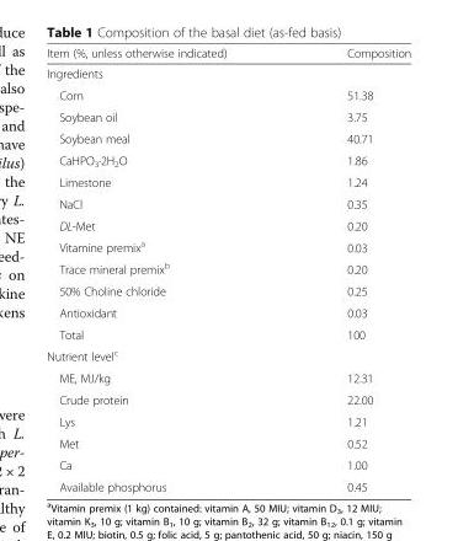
<table><thead><tr><td>Item (%, unless otherwise indicated)</td><td>Composition</td></tr></thead><tbody><tr><td colspan="2">Ingredients</td></tr><tr><td>Corn</td><td>51.38</td></tr><tr><td>Soybean oil</td><td>3.75</td></tr><tr><td>Soybean meal</td><td>40.71</td></tr><tr><td>CaHPO<sub>3</sub>·2H<sub>2</sub>O</td><td>1.86</td></tr><tr><td>Limestone</td><td>1.24</td></tr><tr><td>NaCl</td><td>0.35</td></tr><tr><td>DL-Met</td><td>0.20</td></tr><tr><td>Vitamine premix<sup>a</sup></td><td>0.03</td></tr><tr><td>Trace mineral premix<sup>b</sup></td><td>0.20</td></tr><tr><td>50% Choline chloride</td><td>0.25</td></tr><tr><td>Antioxidant</td><td>0.03</td></tr><tr><td>Total</td><td>100</td></tr><tr><td colspan="2">Nutrient level<sup>c</sup></td></tr><tr><td>ME, MJ/kg</td><td>12.31</td></tr><tr><td>Crude protein</td><td>22.00</td></tr><tr><td>Lys</td><td>1.21</td></tr><tr><td>Met</td><td>0.52</td></tr><tr><td>Ca</td><td>1.00</td></tr><tr><td>Available phosphorus</td><td>0.45</td></tr></tbody></table>